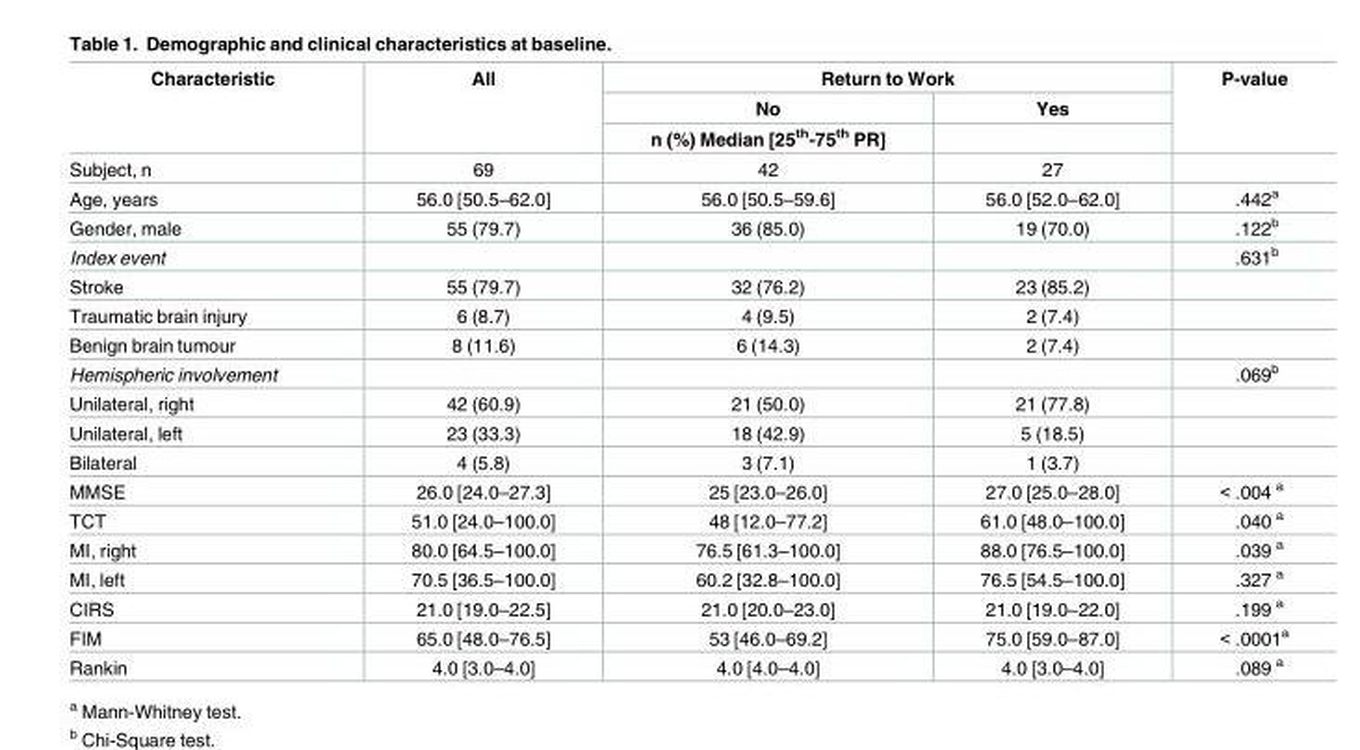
<table><thead><tr><td rowspan="3">Characteristic</td><td rowspan="3">All</td><td colspan="2">Return to Work</td><td rowspan="3">P-value</td></tr><tr><td rowspan="2">No n (%) Median [25<sup>th</sup>-75<sup>th</sup> PR]</td><td rowspan="2">Yes</td></tr><tr></tr></thead><tbody><tr><td>Subject, n</td><td>69</td><td>42</td><td>27</td><td></td></tr><tr><td>Age, years</td><td>56.0 [50.5–62.0]</td><td>56.0 [50.5–59.6]</td><td>56.0 [52.0–62.0]</td><td>.442<sup>a</sup></td></tr><tr><td>Gender, male</td><td>55 (79.7)</td><td>36 (85.0)</td><td>19 (70.0)</td><td>.122<sup>b</sup></td></tr><tr><td>Index event</td><td></td><td></td><td></td><td>.631<sup>b</sup></td></tr><tr><td>Stroke</td><td>55 (79.7)</td><td>32 (76.2)</td><td>23 (85.2)</td><td></td></tr><tr><td>Traumatic brain injury</td><td>6 (8.7)</td><td>4 (9.5)</td><td>2 (7.4)</td><td></td></tr><tr><td>Benign brain tumour</td><td>8 (11.6)</td><td>6 (14.3)</td><td>2 (7.4)</td><td></td></tr><tr><td>Hemispheric involvement</td><td></td><td></td><td></td><td>.069<sup>b</sup></td></tr><tr><td>Unilateral, right</td><td>42 (60.9)</td><td>21 (50.0)</td><td>21 (77.8)</td><td></td></tr><tr><td>Unilateral, left</td><td>23 (33.3)</td><td>18 (42.9)</td><td>5 (18.5)</td><td></td></tr><tr><td>Bilateral</td><td>4 (5.8)</td><td>3 (7.1)</td><td>1 (3.7)</td><td></td></tr><tr><td>MMSE</td><td>26.0 [24.0–27.3]</td><td>25 [23.0–26.0]</td><td>27.0 [25.0–28.0]</td><td>&lt; .004 <sup>a</sup></td></tr><tr><td>TCT</td><td>51.0 [24.0–100.0]</td><td>48 [12.0–77.2]</td><td>61.0 [48.0–100.0]</td><td>.040 <sup>a</sup></td></tr><tr><td>MI, right</td><td>80.0 [64.5–100.0]</td><td>76.5 [61.3–100.0]</td><td>88.0 [76.5–100.0]</td><td>.039 <sup>a</sup></td></tr><tr><td>MI, left</td><td>70.5 [36.5–100.0]</td><td>60.2 [32.8–100.0]</td><td>76.5 [54.5–100.0]</td><td>.327 <sup>a</sup></td></tr><tr><td>CIRS</td><td>21.0 [19.0–22.5]</td><td>21.0 [20.0–23.0]</td><td>21.0 [19.0–22.0]</td><td>.199 <sup>a</sup></td></tr><tr><td>FIM</td><td>65.0 [48.0–76.5]</td><td>53 [46.0–69.2]</td><td>75.0 [59.0–87.0]</td><td>&lt; .0001<sup>a</sup></td></tr><tr><td>Rankin</td><td>4.0 [3.0–4.0]</td><td>4.0 [4.0–4.0]</td><td>4.0 [3.0–4.0]</td><td>.089 <sup>a</sup></td></tr></tbody></table>